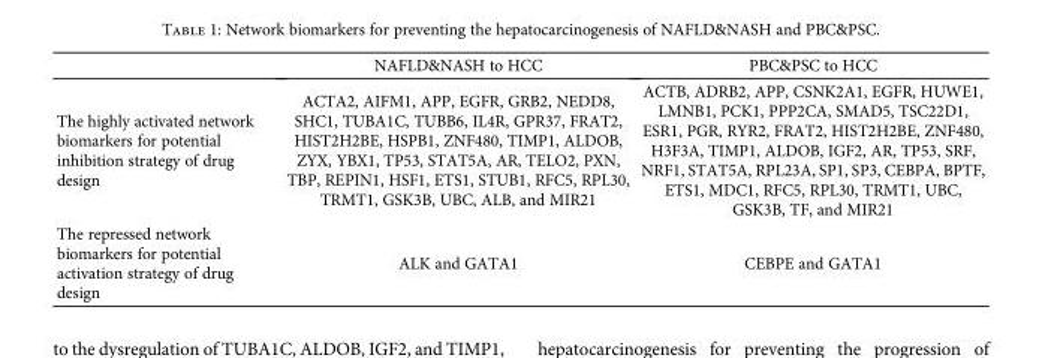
<table><thead><tr><td></td><td>NAFLD&amp;NASH to HCC</td><td>PBC&amp;PSC to HCC</td></tr></thead><tbody><tr><td>The highly activated network biomarkers for potential inhibition strategy of drug design</td><td>ACTA2, AIFM1, APP, EGFR, GRB2, NEDD8, SHC1, TUBA1C, TUBB6, IL4R, GPR37, FRAT2, HIST2H2BE, HSPB1, ZNF480, TIMP1, ALDOB, ZYX, YBX1, TP53, STAT5A, AR, TELO2, PXN, TBP, REPIN1, HSF1, ETS1, STUB1, RFC5, RPL30, TRMT1, GSK3B, UBC, ALB, and MIR21</td><td>ACTB, ADRB2, APP, CSNK2A1, EGFR, HUWE1, LMNB1, PCK1, PPP2CA, SMAD5, TSC22D1, ESR1, PGR, RYR2, FRAT2, HIST2H2BE, ZNF480, H3F3A, TIMP1, ALDOB, IGF2, AR, TP53, SRF, NRF1, STAT5A, RPL23A, SP1, SP3, CEBPA, BPTF, ETS1, MDC1, RFC5, RPL30, TRMT1, UBC, GSK3B, TF, and MIR21</td></tr><tr><td>The repressed network biomarkers for potential activation strategy of drug design</td><td>ALK and GATA1</td><td>CEBPE and GATA1</td></tr></tbody></table>